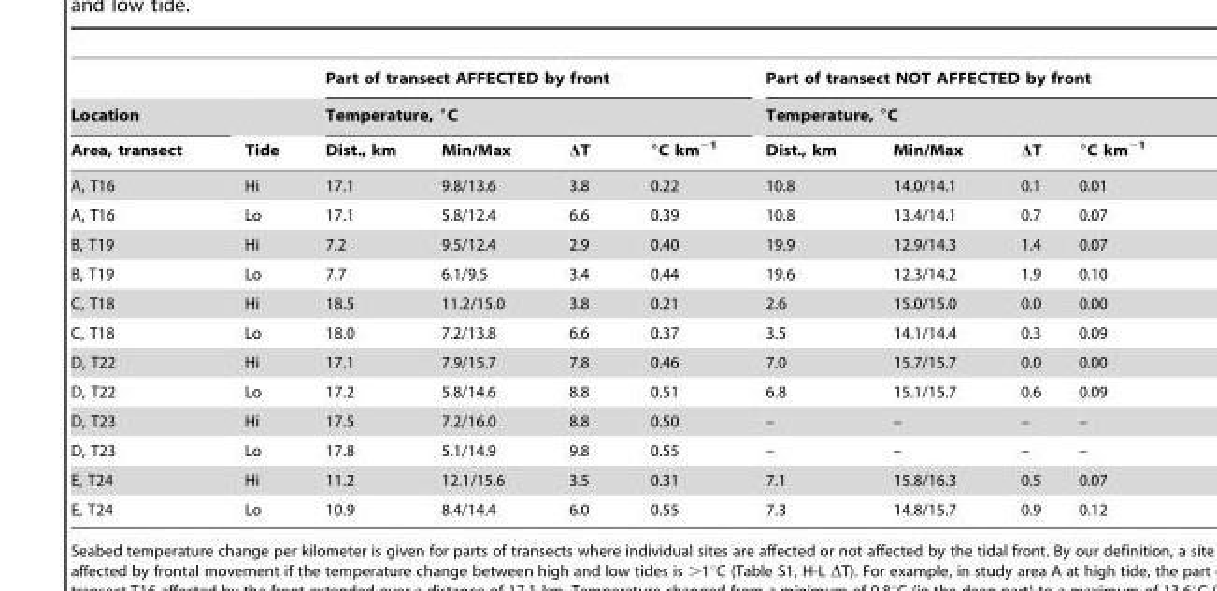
<table><thead><tr><td rowspan="3">Location Area, transect</td><td rowspan="3">Tide</td><td rowspan="2" colspan="4">Part of transect AFFECTED by front Temperature, °C</td><td rowspan="2" colspan="4">Part of transect NOT AFFECTED by front Temperature, °C</td></tr><tr></tr><tr><td>Dist., km</td><td>Min/Max</td><td>ΔT</td><td>°C km<sup>−1</sup></td><td>Dist., km</td><td>Min/Max</td><td>ΔT</td><td>°C km<sup>−1</sup></td></tr></thead><tbody><tr><td>A, T16</td><td>Hi</td><td>17.1</td><td>9.8/13.6</td><td>3.8</td><td>0.22</td><td>10.8</td><td>14.0/14.1</td><td>0.1</td><td>0.01</td></tr><tr><td>A, T16</td><td>Lo</td><td>17.1</td><td>5.8/12.4</td><td>6.6</td><td>0.39</td><td>10.8</td><td>13.4/14.1</td><td>0.7</td><td>0.07</td></tr><tr><td>B, T19</td><td>Hi</td><td>7.2</td><td>9.5/12.4</td><td>2.9</td><td>0.40</td><td>19.9</td><td>12.9/14.3</td><td>1.4</td><td>0.07</td></tr><tr><td>B, T19</td><td>Lo</td><td>7.7</td><td>6.1/9.5</td><td>3.4</td><td>0.44</td><td>19.6</td><td>12.3/14.2</td><td>1.9</td><td>0.10</td></tr><tr><td>C, T18</td><td>Hi</td><td>18.5</td><td>11.2/15.0</td><td>3.8</td><td>0.21</td><td>2.6</td><td>15.0/15.0</td><td>0.0</td><td>0.00</td></tr><tr><td>C, T18</td><td>Lo</td><td>18.0</td><td>7.2/13.8</td><td>6.6</td><td>0.37</td><td>3.5</td><td>14.1/14.4</td><td>0.3</td><td>0.09</td></tr><tr><td>D, T22</td><td>Hi</td><td>17.1</td><td>7.9/15.7</td><td>7.8</td><td>0.46</td><td>7.0</td><td>15.7/15.7</td><td>0.0</td><td>0.00</td></tr><tr><td>D, T22</td><td>Lo</td><td>17.2</td><td>5.8/14.6</td><td>8.8</td><td>0.51</td><td>6.8</td><td>15.1/15.7</td><td>0.6</td><td>0.09</td></tr><tr><td>D, T23</td><td>Hi</td><td>17.5</td><td>7.2/16.0</td><td>8.8</td><td>0.50</td><td>–</td><td>–</td><td>–</td><td>–</td></tr><tr><td>D, T23</td><td>Lo</td><td>17.8</td><td>5.1/14.9</td><td>9.8</td><td>0.55</td><td>–</td><td>–</td><td>–</td><td>–</td></tr><tr><td>E, T24</td><td>Hi</td><td>11.2</td><td>12.1/15.6</td><td>3.5</td><td>0.31</td><td>7.1</td><td>15.8/16.3</td><td>0.5</td><td>0.07</td></tr><tr><td>E, T24</td><td>Lo</td><td>10.9</td><td>8.4/14.4</td><td>6.0</td><td>0.55</td><td>7.3</td><td>14.8/15.7</td><td>0.9</td><td>0.12</td></tr></tbody></table>